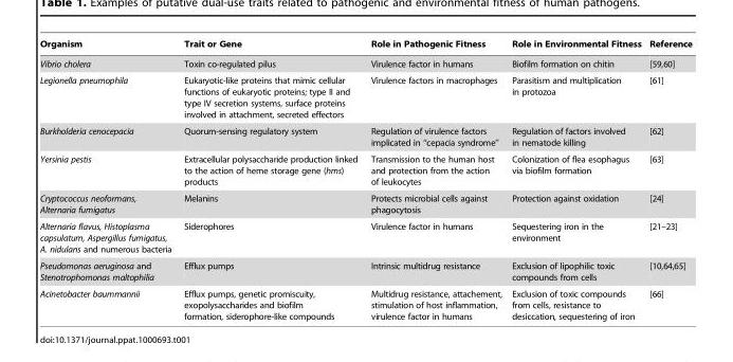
<table><thead><tr><td>Organism</td><td>Trait or Gene</td><td>Role in Pathogenic Fitness</td><td>Role in Environmental Fitness</td><td>Reference</td></tr></thead><tbody><tr><td>Vibrio cholera</td><td>Toxin co-regulated pilus</td><td>Virulence factor in humans</td><td>Biofilm formation on chitin</td><td>[59,60]</td></tr><tr><td>Legionella pneumophila</td><td>Eukaryotic-like proteins that mimic cellular functions of eukaryotic proteins; type II and type IV secretion systems, surface proteins involved in attachment, secreted effectors</td><td>Virulence factors in macrophages</td><td>Parasitism and multiplication in protozoa</td><td>[61]</td></tr><tr><td>Burkholderia cenocepacia</td><td>Quorum-sensing regulatory system</td><td>Regulation of virulence factors implicated in ‘‘cepacia syndrome’’</td><td>Regulation of factors involved in nematode killing</td><td>[62]</td></tr><tr><td>Yersinia pestis</td><td>Extracellular polysaccharide production linked to the action of heme storage gene (hms) products</td><td>Transmission to the human host and protection from the action of leukocytes</td><td>Colonization of flea esophagus via biofilm formation</td><td>[63]</td></tr><tr><td>Cryptococcus neoformans, Alternaria fumigatus</td><td>Melanins</td><td>Protects microbial cells against phagocytosis</td><td>Protection against oxidation</td><td>[24]</td></tr><tr><td>Alternaria flavus, Histoplasma capsulatum, Aspergillus fumigatus, A. nidulans and numerous bacteria</td><td>Siderophores</td><td>Virulence factor in humans</td><td>Sequestering iron in the environment</td><td>[21–23]</td></tr><tr><td>Pseudomonas aeruginosa and Stenotrophomonas maltophilia</td><td>Efflux pumps</td><td>Intrinsic multidrug resistance</td><td>Exclusion of lipophilic toxic compounds from cells</td><td>[10,64,65]</td></tr><tr><td>Acinetobacter baummannii</td><td>Efflux pumps, genetic promiscuity, exopolysaccharides and biofilm formation, siderophore-like compounds</td><td>Multidrug resistance, attachement, stimulation of host inflammation, virulence factor in humans</td><td>Exclusion of toxic compounds from cells, resistance to desiccation, sequestering of iron</td><td>[66]</td></tr></tbody></table>